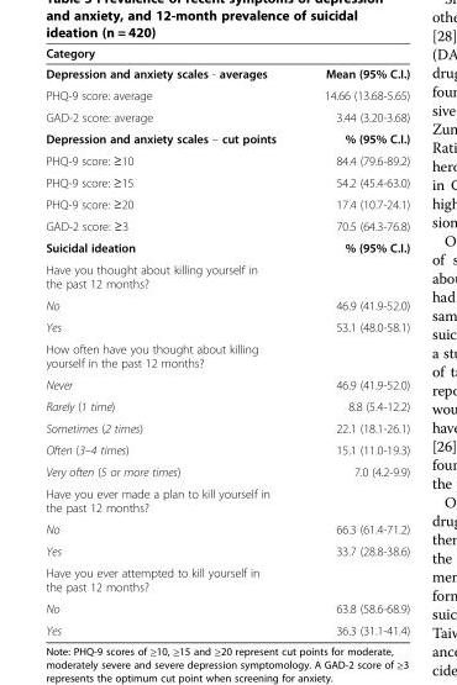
<table><thead><tr><td colspan="2">Category</td></tr><tr><td>Depression and anxiety scales - averages</td><td>Mean (95% C.I.)</td></tr></thead><tbody><tr><td>PHQ-9 score: average</td><td>14.66 (13.68-5.65)</td></tr><tr><td>GAD-2 score: average</td><td>3.44 (3.20-3.68)</td></tr><tr><td>Depression and anxiety scales – cut points</td><td>% (95% C.I.)</td></tr><tr><td>PHQ-9 score: ≥10</td><td>84.4 (79.6-89.2)</td></tr><tr><td>PHQ-9 score: ≥15</td><td>54.2 (45.4-63.0)</td></tr><tr><td>PHQ-9 score: ≥20</td><td>17.4 (10.7-24.1)</td></tr><tr><td>GAD-2 score: ≥3</td><td>70.5 (64.3-76.8)</td></tr><tr><td>Suicidal ideation</td><td>% (95% C.I.)</td></tr><tr><td colspan="2">Have you thought about killing yourself in the past 12 months?</td></tr><tr><td>No</td><td>46.9 (41.9-52.0)</td></tr><tr><td>Yes</td><td>53.1 (48.0-58.1)</td></tr><tr><td colspan="2">How often have you thought about killing yourself in the past 12 months?</td></tr><tr><td>Never</td><td>46.9 (41.9-52.0)</td></tr><tr><td>Rarely (1 time)</td><td>8.8 (5.4-12.2)</td></tr><tr><td>Sometimes (2 times)</td><td>22.1 (18.1-26.1)</td></tr><tr><td>Often (3–4 times)</td><td>15.1 (11.0-19.3)</td></tr><tr><td>Very often (5 or more times)</td><td>7.0 (4.2-9.9)</td></tr><tr><td colspan="2">Have you ever made a plan to kill yourself in the past 12 months?</td></tr><tr><td>No</td><td>66.3 (61.4-71.2)</td></tr><tr><td>Yes</td><td>33.7 (28.8-38.6)</td></tr><tr><td colspan="2">Have you ever attempted to kill yourself in the past 12 months?</td></tr><tr><td>No</td><td>63.8 (58.6-68.9)</td></tr><tr><td>Yes</td><td>36.3 (31.1-41.4)</td></tr></tbody></table>